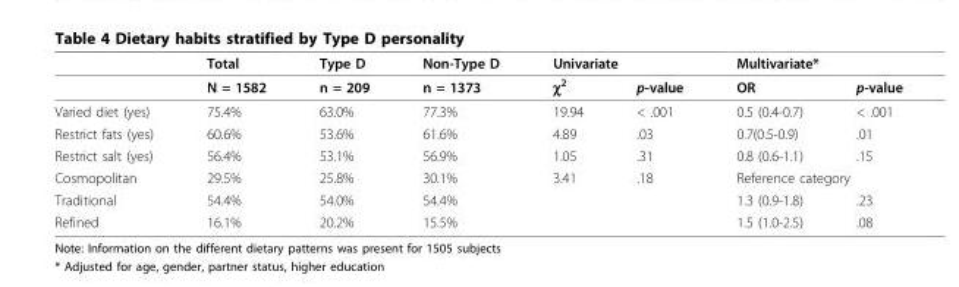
<table><thead><tr><td rowspan="2"></td><td rowspan="2">Total N = 1582</td><td rowspan="2">Type D n = 209</td><td rowspan="2">Non-Type D n = 1373</td><td colspan="2">Univariate</td><td colspan="2">Multivariate*</td></tr><tr><td>χ2</td><td>p-value</td><td>OR</td><td>p-value</td></tr></thead><tbody><tr><td>Varied diet (yes)</td><td>75.4%</td><td>63.0%</td><td>77.3%</td><td>19.94</td><td>&lt; .001</td><td>0.5 (0.4-0.7)</td><td>&lt; .001</td></tr><tr><td>Restrict fats (yes)</td><td>60.6%</td><td>53.6%</td><td>61.6%</td><td>4.89</td><td>.03</td><td>0.7(0.5-0.9)</td><td>.01</td></tr><tr><td>Restrict salt (yes)</td><td>56.4%</td><td>53.1%</td><td>56.9%</td><td>1.05</td><td>.31</td><td>0.8 (0.6-1.1)</td><td>.15</td></tr><tr><td>Cosmopolitan</td><td>29.5%</td><td>25.8%</td><td>30.1%</td><td>3.41</td><td>.18</td><td colspan="2">Reference category</td></tr><tr><td>Traditional</td><td>54.4%</td><td>54.0%</td><td>54.4%</td><td></td><td></td><td>1.3 (0.9-1.8)</td><td>.23</td></tr><tr><td>Refined</td><td>16.1%</td><td>20.2%</td><td>15.5%</td><td></td><td></td><td>1.5 (1.0-2.5)</td><td>.08</td></tr></tbody></table>